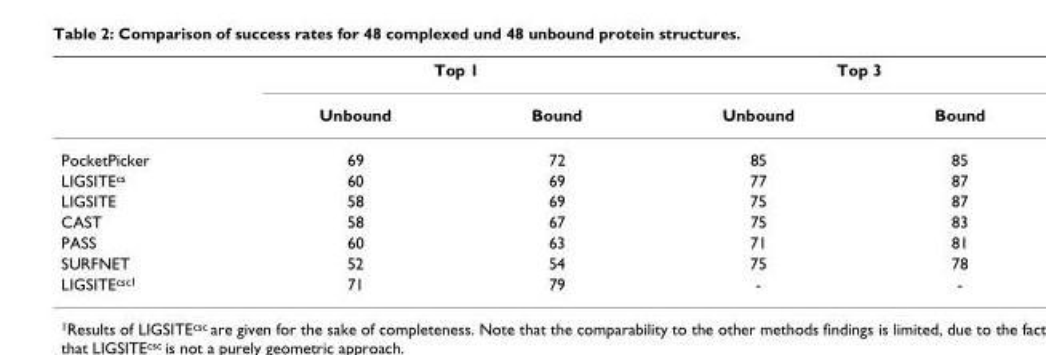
<table><thead><tr><td rowspan="2"></td><td colspan="2">Top 1</td><td colspan="2">Top 3</td></tr><tr><td>Unbound</td><td>Bound</td><td>Unbound</td><td>Bound</td></tr></thead><tbody><tr><td>PocketPicker</td><td>69</td><td>72</td><td>85</td><td>85</td></tr><tr><td>LIGSITE<sup>cs</sup></td><td>60</td><td>69</td><td>77</td><td>87</td></tr><tr><td>LIGSITE</td><td>58</td><td>69</td><td>75</td><td>87</td></tr><tr><td>CAST</td><td>58</td><td>67</td><td>75</td><td>83</td></tr><tr><td>PASS</td><td>60</td><td>63</td><td>71</td><td>81</td></tr><tr><td>SURFNET</td><td>52</td><td>54</td><td>75</td><td>78</td></tr><tr><td>LIGSITE<sup>csc1</sup></td><td>71</td><td>79</td><td>-</td><td>-</td></tr></tbody></table>